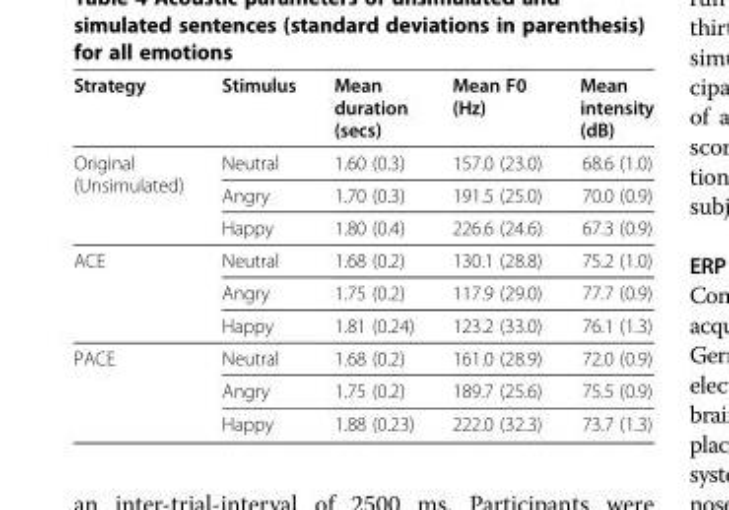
<table><thead><tr><td>Strategy</td><td>Stimulus</td><td>Mean duration (secs)</td><td>Mean F0 (Hz)</td><td>Mean intensity (dB)</td></tr></thead><tbody><tr><td rowspan="3">Original (Unsimulated)</td><td>Neutral</td><td>1.60 (0.3)</td><td>157.0 (23.0)</td><td>68.6 (1.0)</td></tr><tr><td>Angry</td><td>1.70 (0.3)</td><td>191.5 (25.0)</td><td>70.0 (0.9)</td></tr><tr><td>Happy</td><td>1.80 (0.4)</td><td>226.6 (24.6)</td><td>67.3 (0.9)</td></tr><tr><td rowspan="3">ACE</td><td>Neutral</td><td>1.68 (0.2)</td><td>130.1 (28.8)</td><td>75.2 (1.0)</td></tr><tr><td>Angry</td><td>1.75 (0.2)</td><td>117.9 (29.0)</td><td>77.7 (0.9)</td></tr><tr><td>Happy</td><td>1.81 (0.24)</td><td>123.2 (33.0)</td><td>76.1 (1.3)</td></tr><tr><td rowspan="3">PACE</td><td>Neutral</td><td>1.68 (0.2)</td><td>161.0 (28.9)</td><td>72.0 (0.9)</td></tr><tr><td>Angry</td><td>1.75 (0.2)</td><td>189.7 (25.6)</td><td>75.5 (0.9)</td></tr><tr><td>Happy</td><td>1.88 (0.23)</td><td>222.0 (32.3)</td><td>73.7 (1.3)</td></tr></tbody></table>